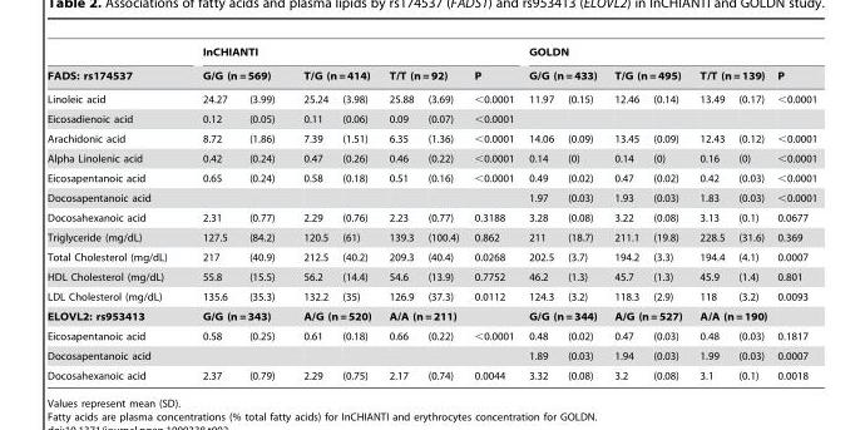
<table><thead><tr><td rowspan="3">FADS: rs174537 Linoleic acid</td><td colspan="7">InCHIANTI</td><td colspan="7">GOLDN</td></tr><tr><td colspan="2">G/G (n = 569)</td><td colspan="2">T/G (n = 414)</td><td colspan="2">T/T (n = 92)</td><td rowspan="2">P &lt;0.0001</td><td colspan="2">G/G (n = 433)</td><td colspan="2">T/G (n = 495)</td><td colspan="2">T/T (n = 139)</td><td rowspan="2">P &lt;0.0001</td></tr><tr><td>24.27</td><td>(3.99)</td><td>25.24</td><td>(3.98)</td><td>25.88</td><td>(3.69)</td><td>11.97</td><td>(0.15)</td><td>12.46</td><td>(0.14)</td><td>13.49</td><td>(0.17)</td></tr></thead><tbody><tr><td>Eicosadienoic acid</td><td>0.12</td><td>(0.05)</td><td>0.11</td><td>(0.06)</td><td>0.09</td><td>(0.07)</td><td>&lt;0.0001</td><td></td><td></td><td></td><td></td><td></td><td></td><td></td></tr><tr><td>Arachidonic acid</td><td>8.72</td><td>(1.86)</td><td>7.39</td><td>(1.51)</td><td>6.35</td><td>(1.36)</td><td>&lt;0.0001</td><td>14.06</td><td>(0.09)</td><td>13.45</td><td>(0.09)</td><td>12.43</td><td>(0.12)</td><td>&lt;0.0001</td></tr><tr><td>Alpha Linolenic acid</td><td>0.42</td><td>(0.24)</td><td>0.47</td><td>(0.26)</td><td>0.46</td><td>(0.22)</td><td>&lt;0.0001</td><td>0.14</td><td>(0)</td><td>0.14</td><td>(0)</td><td>0.16</td><td>(0)</td><td>&lt;0.0001</td></tr><tr><td>Eicosapentanoic acid</td><td>0.65</td><td>(0.24)</td><td>0.58</td><td>(0.18)</td><td>0.51</td><td>(0.16)</td><td>&lt;0.0001</td><td>0.49</td><td>(0.02)</td><td>0.47</td><td>(0.02)</td><td>0.42</td><td>(0.03)</td><td>&lt;0.0001</td></tr><tr><td>Docosapentanoic acid</td><td></td><td></td><td></td><td></td><td></td><td></td><td></td><td>1.97</td><td>(0.03)</td><td>1.93</td><td>(0.03)</td><td>1.83</td><td>(0.03)</td><td>&lt;0.0001</td></tr><tr><td>Docosahexanoic acid</td><td>2.31</td><td>(0.77)</td><td>2.29</td><td>(0.76)</td><td>2.23</td><td>(0.77)</td><td>0.3188</td><td>3.28</td><td>(0.08)</td><td>3.22</td><td>(0.08)</td><td>3.13</td><td>(0.1)</td><td>0.0677</td></tr><tr><td>Triglyceride (mg/dL)</td><td>127.5</td><td>(84.2)</td><td>120.5</td><td>(61)</td><td>139.3</td><td>(100.4)</td><td>0.862</td><td>211</td><td>(18.7)</td><td>211.1</td><td>(19.8)</td><td>228.5</td><td>(31.6)</td><td>0.369</td></tr><tr><td>Total Cholesterol (mg/dL)</td><td>217</td><td>(40.9)</td><td>212.5</td><td>(40.2)</td><td>209.3</td><td>(40.4)</td><td>0.0268</td><td>202.5</td><td>(3.7)</td><td>194.2</td><td>(3.3)</td><td>194.4</td><td>(4.1)</td><td>0.0007</td></tr><tr><td>HDL Cholesterol (mg/dL)</td><td>55.8</td><td>(15.5)</td><td>56.2</td><td>(14.4)</td><td>54.6</td><td>(13.9)</td><td>0.7752</td><td>46.2</td><td>(1.3)</td><td>45.7</td><td>(1.3)</td><td>45.9</td><td>(1.4)</td><td>0.801</td></tr><tr><td>LDL Cholesterol (mg/dL)</td><td>135.6</td><td>(35.3)</td><td>132.2</td><td>(35)</td><td>126.9</td><td>(37.3)</td><td>0.0112</td><td>124.3</td><td>(3.2)</td><td>118.3</td><td>(2.9)</td><td>118</td><td>(3.2)</td><td>0.0093</td></tr><tr><td>ELOVL2: rs953413</td><td colspan="2">G/G (n = 343)</td><td colspan="2">A/G (n = 520)</td><td colspan="2">A/A (n = 211)</td><td></td><td colspan="2">G/G (n = 344)</td><td colspan="2">A/G (n = 527)</td><td colspan="2">A/A (n = 190)</td><td></td></tr><tr><td>Eicosapentanoic acid</td><td>0.58</td><td>(0.25)</td><td>0.61</td><td>(0.18)</td><td>0.66</td><td>(0.22)</td><td>&lt;0.0001</td><td>0.48</td><td>(0.02)</td><td>0.47</td><td>(0.03)</td><td>0.48</td><td>(0.03)</td><td>0.1817</td></tr><tr><td>Docosapentanoic acid</td><td></td><td></td><td></td><td></td><td></td><td></td><td></td><td>1.89</td><td>(0.03)</td><td>1.94</td><td>(0.03)</td><td>1.99</td><td>(0.03)</td><td>0.0007</td></tr><tr><td>Docosahexanoic acid</td><td>2.37</td><td>(0.79)</td><td>2.29</td><td>(0.75)</td><td>2.17</td><td>(0.74)</td><td>0.0044</td><td>3.32</td><td>(0.08)</td><td>3.2</td><td>(0.08)</td><td>3.1</td><td>(0.1)</td><td>0.0018</td></tr></tbody></table>